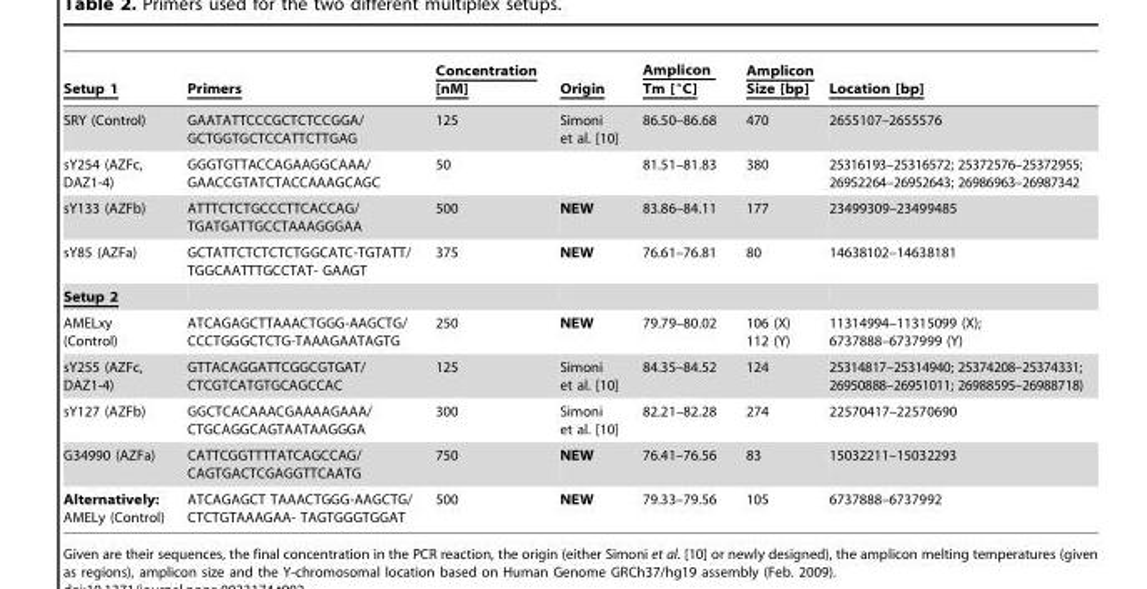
<table><thead><tr><td>Setup 1</td><td>Primers</td><td>Concentration [nM]</td><td>Origin</td><td>Amplicon Tm [°C]</td><td>Amplicon Size [bp]</td><td>Location [bp]</td></tr></thead><tbody><tr><td>SRY (Control)</td><td>GAATATTCCCGCTCTCCGGA/ GCTGGTGCTCCATTCTTGAG</td><td>125</td><td>Simoni et al. [10]</td><td>86.50–86.68</td><td>470</td><td>2655107–2655576</td></tr><tr><td>sY254 (AZFc, DAZ1-4)</td><td>GGGTGTTACCAGAAGGCAAA/ GAACCGTATCTACCAAAGCAGC</td><td>50</td><td></td><td>81.51–81.83</td><td>380</td><td>25316193–25316572; 25372576–25372955; 26952264–26952643; 26986963–26987342</td></tr><tr><td>sY133 (AZFb)</td><td>ATTTCTCTGCCCTTCACCAG/ TGATGATTGCCTAAAGGGAA</td><td>500</td><td>NEW</td><td>83.86–84.11</td><td>177</td><td>23499309–23499485</td></tr><tr><td>sY85 (AZFa)</td><td>GCTATTCTCTCTCTGGCATC-TGTATT/ TGGCAATTTGCCTAT- GAAGT</td><td>375</td><td>NEW</td><td>76.61–76.81</td><td>80</td><td>14638102–14638181</td></tr><tr><td colspan="7">Setup 2</td></tr><tr><td>AMELxy (Control)</td><td>ATCAGAGCTTAAACTGGG-AAGCTG/ CCCTGGGCTCTG-TAAAGAATAGTG</td><td>250</td><td>NEW</td><td>79.79–80.02</td><td>106 (X) 112 (Y)</td><td>11314994–11315099 (X); 6737888–6737999 (Y)</td></tr><tr><td>sY255 (AZFc, DAZ1-4)</td><td>GTTACAGGATTCGGCGTGAT/ CTCGTCATGTGCAGCCAC</td><td>125</td><td>Simoni et al. [10]</td><td>84.35–84.52</td><td>124</td><td>25314817–25314940; 25374208–25374331; 26950888–26951011; 26988595–26988718)</td></tr><tr><td>sY127 (AZFb)</td><td>GGCTCACAAACGAAAAGAAA/ CTGCAGGCAGTAATAAGGGA</td><td>300</td><td>Simoni et al. [10]</td><td>82.21–82.28</td><td>274</td><td>22570417–22570690</td></tr><tr><td>G34990 (AZFa)</td><td>CATTCGGTTTTATCAGCCAG/ CAGTGACTCGAGGTTCAATG</td><td>750</td><td>NEW</td><td>76.41–76.56</td><td>83</td><td>15032211–15032293</td></tr><tr><td>Alternatively: AMELy (Control)</td><td>ATCAGAGCT TAAACTGGG-AAGCTG/ CTCTGTAAAGAA- TAGTGGGTGGAT</td><td>500</td><td>NEW</td><td>79.33–79.56</td><td>105</td><td>6737888–6737992</td></tr></tbody></table>